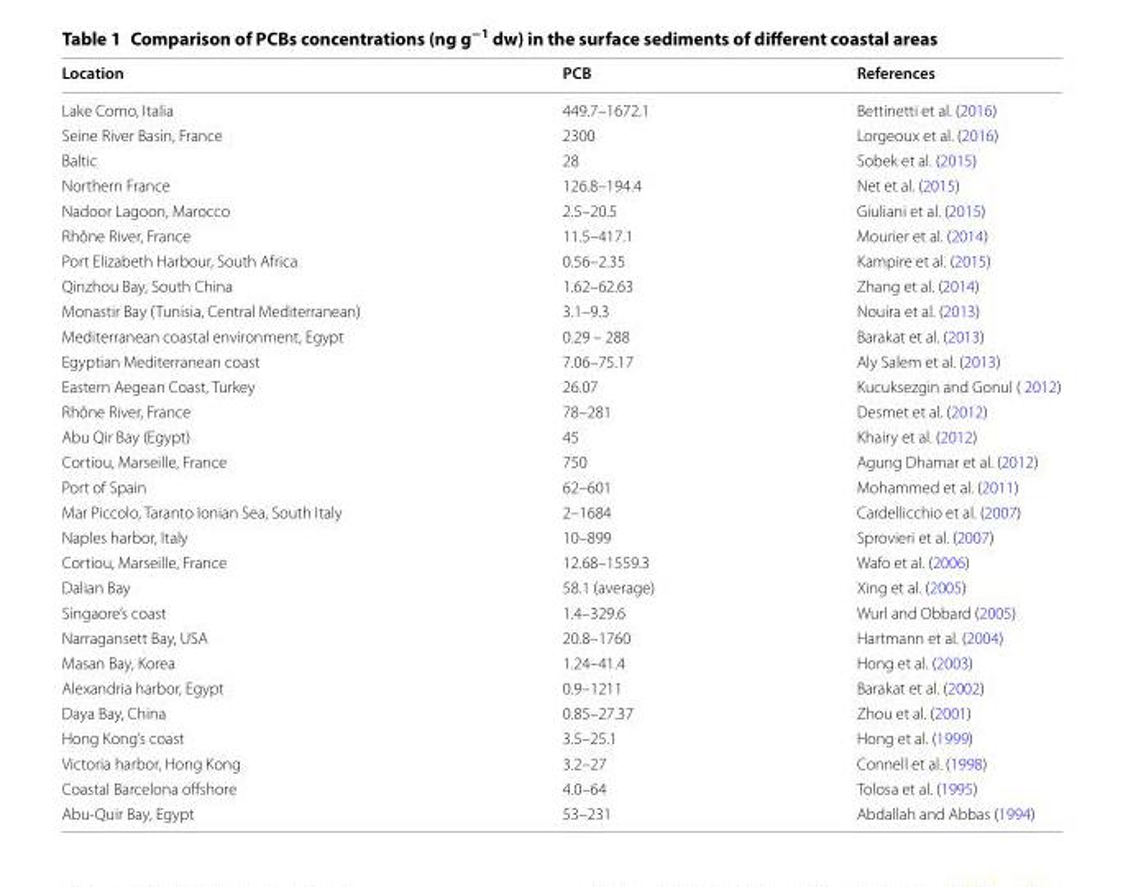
<table><thead><tr><td>Location</td><td>PCB</td><td>References</td></tr></thead><tbody><tr><td>Lake Como, Italia</td><td>449.7–1672.1</td><td>Bettinetti et al. (2016)</td></tr><tr><td>Seine River Basin, France</td><td>2300</td><td>Lorgeoux et al. (2016)</td></tr><tr><td>Baltic</td><td>28</td><td>Sobek et al. (2015)</td></tr><tr><td>Northern France</td><td>126.8–194.4</td><td>Net et al. (2015)</td></tr><tr><td>Nadoor Lagoon, Marocco</td><td>2.5–20.5</td><td>Giuliani et al. (2015)</td></tr><tr><td>Rhône River, France</td><td>11.5–417.1</td><td>Mourier et al. (2014)</td></tr><tr><td>Port Elizabeth Harbour, South Africa</td><td>0.56–2.35</td><td>Kampire et al. (2015)</td></tr><tr><td>Qinzhou Bay, South China</td><td>1.62–62.63</td><td>Zhang et al. (2014)</td></tr><tr><td>Monastir Bay (Tunisia, Central Mediterranean)</td><td>3.1–9.3</td><td>Nouira et al. (2013)</td></tr><tr><td>Mediterranean coastal environment, Egypt</td><td>0.29 – 288</td><td>Barakat et al. (2013)</td></tr><tr><td>Egyptian Mediterranean coast</td><td>7.06–75.17</td><td>Aly Salem et al. (2013)</td></tr><tr><td>Eastern Aegean Coast, Turkey</td><td>26.07</td><td>Kucuksezgin and Gonul ( 2012)</td></tr><tr><td>Rhône River, France</td><td>78–281</td><td>Desmet et al. (2012)</td></tr><tr><td>Abu Qir Bay (Egypt)</td><td>45</td><td>Khairy et al. (2012)</td></tr><tr><td>Cortiou, Marseille, France</td><td>750</td><td>Agung Dhamar et al. (2012)</td></tr><tr><td>Port of Spain</td><td>62–601</td><td>Mohammed et al. (2011)</td></tr><tr><td>Mar Piccolo, Taranto Ionian Sea, South Italy</td><td>2–1684</td><td>Cardellicchio et al. (2007)</td></tr><tr><td>Naples harbor, Italy</td><td>10–899</td><td>Sprovieri et al. (2007)</td></tr><tr><td>Cortiou, Marseille, France</td><td>12.68–1559.3</td><td>Wafo et al. (2006)</td></tr><tr><td>Dalian Bay</td><td>58.1 (average)</td><td>Xing et al. (2005)</td></tr><tr><td>Singaore’s coast</td><td>1.4–329.6</td><td>Wurl and Obbard (2005)</td></tr><tr><td>Narragansett Bay, USA</td><td>20.8–1760</td><td>Hartmann et al. (2004)</td></tr><tr><td>Masan Bay, Korea</td><td>1.24–41.4</td><td>Hong et al. (2003)</td></tr><tr><td>Alexandria harbor, Egypt</td><td>0.9–1211</td><td>Barakat et al. (2002)</td></tr><tr><td>Daya Bay, China</td><td>0.85–27.37</td><td>Zhou et al. (2001)</td></tr><tr><td>Hong Kong’s coast</td><td>3.5–25.1</td><td>Hong et al. (1999)</td></tr><tr><td>Victoria harbor, Hong Kong</td><td>3.2–27</td><td>Connell et al. (1998)</td></tr><tr><td>Coastal Barcelona offshore</td><td>4.0–64</td><td>Tolosa et al. (1995)</td></tr><tr><td>Abu‑Quir Bay, Egypt</td><td>53–231</td><td>Abdallah and Abbas (1994)</td></tr></tbody></table>